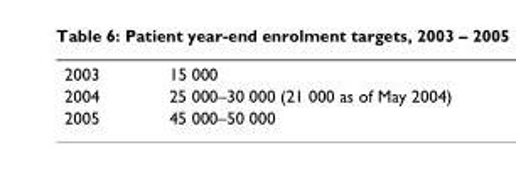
<table><tbody><tr><td>2003</td><td>15 000</td></tr><tr><td>2004</td><td>25 000–30 000 (21 000 as of May 2004)</td></tr><tr><td>2005</td><td>45 000–50 000</td></tr></tbody></table>